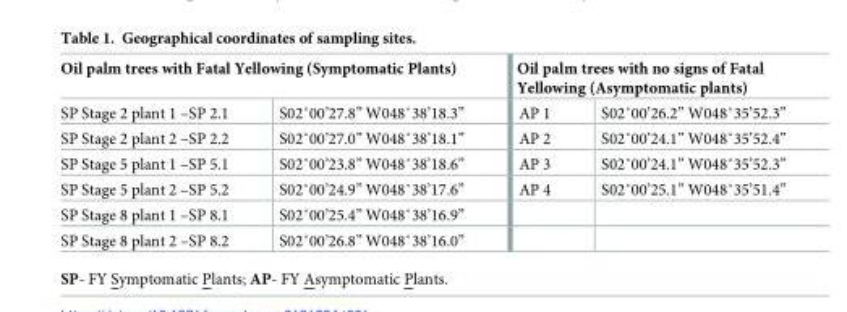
<table><thead><tr><td colspan="2">Oil palm trees with Fatal Yellowing (Symptomatic Plants)</td><td colspan="2">Oil palm trees with no signs of Fatal Yellowing (Asymptomatic plants)</td></tr><tr><td>SP Stage 2 plant 1 –SP 2.1</td><td>S02˚00’27.8” W048˚38’18.3”</td><td>AP 1</td><td>S02˚00’26.2” W048˚35’52.3”</td></tr></thead><tbody><tr><td>SP Stage 2 plant 2 –SP 2.2</td><td>S02˚00’27.0” W048˚38’18.1”</td><td>AP 2</td><td>S02˚00’24.1” W048˚35’52.4”</td></tr><tr><td>SP Stage 5 plant 1 –SP 5.1</td><td>S02˚00’23.8” W048˚38’18.6”</td><td>AP 3</td><td>S02˚00’24.1” W048˚35’52.3”</td></tr><tr><td>SP Stage 5 plant 2 –SP 5.2</td><td>S02˚00’24.9” W048˚38’17.6”</td><td>AP 4</td><td>S02˚00’25.1” W048˚35’51.4”</td></tr><tr><td>SP Stage 8 plant 1 –SP 8.1</td><td>S02˚00’25.4” W048˚38’16.9”</td><td></td><td></td></tr><tr><td>SP Stage 8 plant 2 –SP 8.2</td><td>S02˚00’26.8” W048˚38’16.0”</td><td></td><td></td></tr></tbody></table>